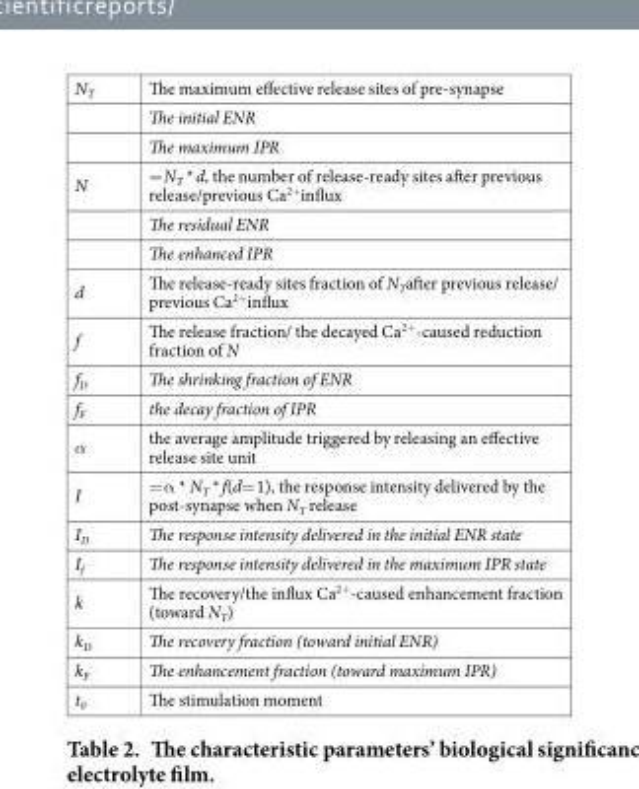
<table><tbody><tr><td rowspan="3">N<sub>T</sub></td><td>The maximum effective release sites of pre-synapse</td></tr><tr><td>The initial ENR</td></tr><tr><td>The maximum IPR</td></tr><tr><td rowspan="3">N</td><td>= N<sub>T</sub> * d, the number of release-ready sites after previous release/previous Ca<sup>2+</sup>influx</td></tr><tr><td>The residual ENR</td></tr><tr><td>The enhanced IPR</td></tr><tr><td>d</td><td>The release-ready sites fraction of N<sub>T</sub>after previous release/ previous Ca<sup>2+</sup>influx</td></tr><tr><td>f</td><td>The release fraction/ the decayed Ca<sup>2+</sup>-caused reduction fraction of N</td></tr><tr><td>f<sub>D</sub></td><td>The shrinking fraction of ENR</td></tr><tr><td>f<sub>F</sub></td><td>the decay fraction of IPR</td></tr><tr><td>α</td><td>the average amplitude triggered by releasing an effective release site unit</td></tr><tr><td>I</td><td>= α * N<sub>T</sub> * f(d= 1), the response intensity delivered by the post-synapse when N<sub>T</sub> release</td></tr><tr><td>I<sub>D</sub></td><td>The response intensity delivered in the initial ENR state</td></tr><tr><td>I<sub>f</sub></td><td>The response intensity delivered in the maximum IPR state</td></tr><tr><td>k</td><td>The recovery/the influx Ca<sup>2+</sup>-caused enhancement fraction (toward N<sub>T</sub>)</td></tr><tr><td>k<sub>D</sub></td><td>The recovery fraction (toward initial ENR)</td></tr><tr><td>k<sub>F</sub></td><td>The enhancement fraction (toward maximum IPR)</td></tr><tr><td>t<sub>0</sub></td><td>The stimulation moment</td></tr></tbody></table>